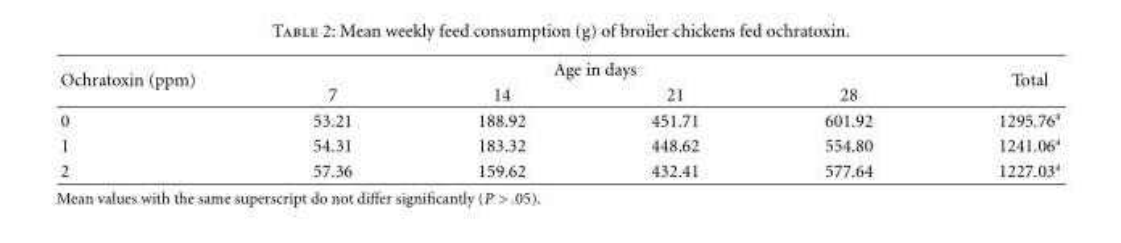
<table><thead><tr><td rowspan="2">Ochratoxin (ppm)</td><td colspan="4">Age in days</td><td rowspan="2">Total</td></tr><tr><td>7</td><td>14</td><td>21</td><td>28</td></tr></thead><tbody><tr><td>0</td><td>53.21</td><td>188.92</td><td>451.71</td><td>601.92</td><td>1295.76<sup>a</sup></td></tr><tr><td>1</td><td>54.31</td><td>183.32</td><td>448.62</td><td>554.80</td><td>1241.06<sup>a</sup></td></tr><tr><td>2</td><td>57.36</td><td>159.62</td><td>432.41</td><td>577.64</td><td>1227.03<sup>a</sup></td></tr></tbody></table>